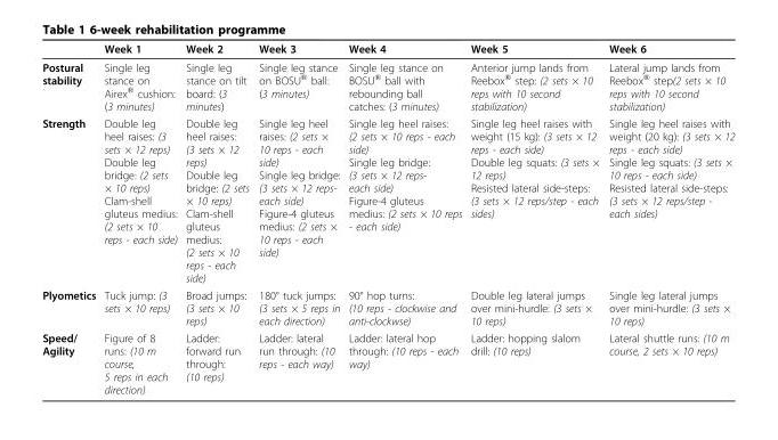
<table><thead><tr><td></td><td>Week 1</td><td>Week 2</td><td>Week 3</td><td>Week 4</td><td>Week 5</td><td>Week 6</td></tr></thead><tbody><tr><td>Postural stability</td><td>Single leg stance on Airex<sup>®</sup> cushion: (3 minutes)</td><td>Single leg stance on tilt board: (3 minutes)</td><td>Single leg stance on BOSU<sup>®</sup> ball: (3 minutes)</td><td>Single leg stance on BOSU<sup>®</sup> ball with rebounding ball catches: (3 minutes)</td><td>Anterior jump lands from Reebox<sup>®</sup> step: (2 sets × 10 reps with 10 second stabilization)</td><td>Lateral jump lands from Reebox<sup>®</sup> step(2 sets × 10 reps with 10 second stabilization)</td></tr><tr><td>Strength</td><td>Double leg heel raises: (3 sets × 12 reps) Double leg bridge: (2 sets × 10 reps) Clam-shell gluteus medius: (2 sets × 10 reps - each side)</td><td>Double leg heel raises: (3 sets × 12 reps) Double leg bridge: (2 sets × 10 reps) Clam-shell gluteus medius: (2 sets × 10 reps - each side)</td><td>Single leg heel raises: (2 sets × 10 reps - each side) Single leg bridge: (3 sets × 12 reps- each side) Figure-4 gluteus medius: (2 sets × 10 reps - each side)</td><td>Single leg heel raises: (2 sets × 10 reps - each side) Single leg bridge: (3 sets × 12 reps- each side) Figure-4 gluteus medius: (2 sets × 10 reps - each side)</td><td>Single leg heel raises with weight (15 kg): (3 sets × 12 reps - each side) Double leg squats: (3 sets × 12 reps) Resisted lateral side-steps: (3 sets × 12 reps/step - each sides)</td><td>Single leg heel raises with weight (20 kg): (3 sets × 12 reps - each side) Single leg squats: (3 sets × 10 reps - each side) Resisted lateral side-steps: (3 sets × 12 reps/step - each sides)</td></tr><tr><td>Plyometics</td><td>Tuck jump: (3 sets × 10 reps)</td><td>Broad jumps: (3 sets × 10 reps)</td><td>180° tuck jumps: (3 sets × 5 reps in each direction)</td><td>90° hop turns: (10 reps - clockwise and anti-clockwse)</td><td>Double leg lateral jumps over mini-hurdle: (3 sets × 10 reps)</td><td>Single leg lateral jumps over mini-hurdle: (3 sets × 10 reps)</td></tr><tr><td>Speed/ Agility</td><td>Figure of 8 runs: (10 m course, 5 reps in each direction)</td><td>Ladder: forward run through: (10 reps)</td><td>Ladder: lateral run through: (10 reps - each way)</td><td>Ladder: lateral hop through: (10 reps - each way)</td><td>Ladder: hopping slalom drill: (10 reps)</td><td>Lateral shuttle runs: (10 m course, 2 sets × 10 reps)</td></tr></tbody></table>